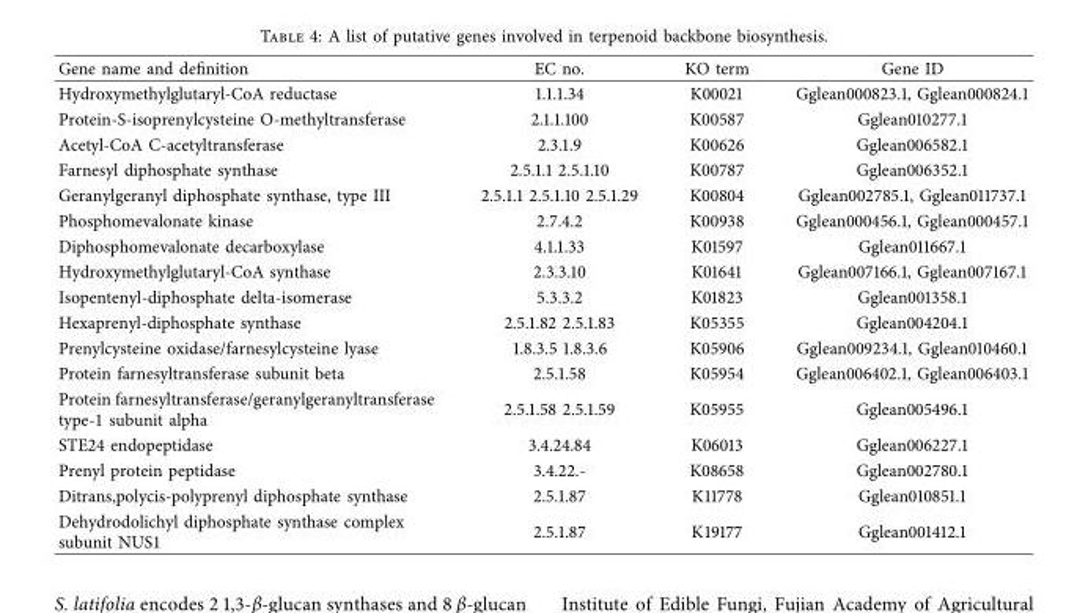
<table><thead><tr><td>Gene name and defnition</td><td>EC no.</td><td>KO term</td><td>Gene ID</td></tr></thead><tbody><tr><td>Hydroxymethylglutaryl-CoA reductase</td><td>1.1.1.34</td><td>K00021</td><td>Gglean000823.1, Gglean000824.1</td></tr><tr><td>Protein-S-isoprenylcysteine O-methyltransferase</td><td>2.1.1.100</td><td>K00587</td><td>Gglean010277.1</td></tr><tr><td>Acetyl-CoA C-acetyltransferase</td><td>2.3.1.9</td><td>K00626</td><td>Gglean006582.1</td></tr><tr><td>Farnesyl diphosphate synthase</td><td>2.5.1.1 2.5.1.10</td><td>K00787</td><td>Gglean006352.1</td></tr><tr><td>Geranylgeranyl diphosphate synthase, type III</td><td>2.5.1.1 2.5.1.10 2.5.1.29</td><td>K00804</td><td>Gglean002785.1, Gglean011737.1</td></tr><tr><td>Phosphomevalonate kinase</td><td>2.7.4.2</td><td>K00938</td><td>Gglean000456.1, Gglean000457.1</td></tr><tr><td>Diphosphomevalonate decarboxylase</td><td>4.1.1.33</td><td>K01597</td><td>Gglean011667.1</td></tr><tr><td>Hydroxymethylglutaryl-CoA synthase</td><td>2.3.3.10</td><td>K01641</td><td>Gglean007166.1, Gglean007167.1</td></tr><tr><td>Isopentenyl-diphosphate delta-isomerase</td><td>5.3.3.2</td><td>K01823</td><td>Gglean001358.1</td></tr><tr><td>Hexaprenyl-diphosphate synthase</td><td>2.5.1.82 2.5.1.83</td><td>K05355</td><td>Gglean004204.1</td></tr><tr><td>Prenylcysteine oxidase/farnesylcysteine lyase</td><td>1.8.3.5 1.8.3.6</td><td>K05906</td><td>Gglean009234.1, Gglean010460.1</td></tr><tr><td>Protein farnesyltransferase subunit beta</td><td>2.5.1.58</td><td>K05954</td><td>Gglean006402.1, Gglean006403.1</td></tr><tr><td>Protein farnesyltransferase/geranylgeranyltransferase type-1 subunit alpha</td><td>2.5.1.58 2.5.1.59</td><td>K05955</td><td>Gglean005496.1</td></tr><tr><td>STE24 endopeptidase</td><td>3.4.24.84</td><td>K06013</td><td>Gglean006227.1</td></tr><tr><td>Prenyl protein peptidase</td><td>3.4.22.-</td><td>K08658</td><td>Gglean002780.1</td></tr><tr><td>Ditrans,polycis-polyprenyl diphosphate synthase</td><td>2.5.1.87</td><td>K11778</td><td>Gglean010851.1</td></tr><tr><td>Dehydrodolichyl diphosphate synthase complex subunit NUS1</td><td>2.5.1.87</td><td>K19177</td><td>Gglean001412.1</td></tr></tbody></table>